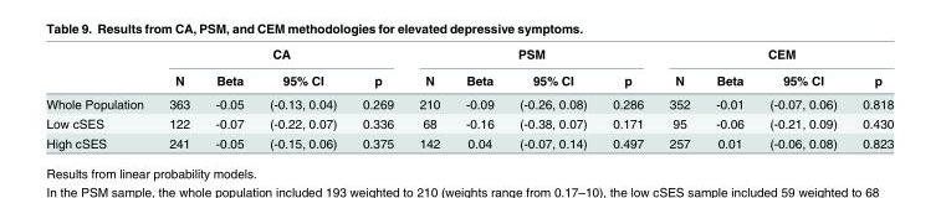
<table><thead><tr><td rowspan="2"></td><td colspan="4">CA</td><td colspan="4">PSM</td><td colspan="4">CEM</td></tr><tr><td>N</td><td>Beta</td><td>95% CI</td><td>p</td><td>N</td><td>Beta</td><td>95% CI</td><td>p</td><td>N</td><td>Beta</td><td>95% CI</td><td>p</td></tr></thead><tbody><tr><td>Whole Population</td><td>363</td><td>-0.05</td><td>(-0.13, 0.04)</td><td>0.269</td><td>210</td><td>-0.09</td><td>(-0.26, 0.08)</td><td>0.286</td><td>352</td><td>-0.01</td><td>(-0.07, 0.06)</td><td>0.818</td></tr><tr><td>Low cSES</td><td>122</td><td>-0.07</td><td>(-0.22, 0.07)</td><td>0.336</td><td>68</td><td>-0.16</td><td>(-0.38, 0.07)</td><td>0.171</td><td>95</td><td>-0.06</td><td>(-0.21, 0.09)</td><td>0.430</td></tr><tr><td>High cSES</td><td>241</td><td>-0.05</td><td>(-0.15, 0.06)</td><td>0.375</td><td>142</td><td>0.04</td><td>(-0.07, 0.14)</td><td>0.497</td><td>257</td><td>0.01</td><td>(-0.06, 0.08)</td><td>0.823</td></tr></tbody></table>